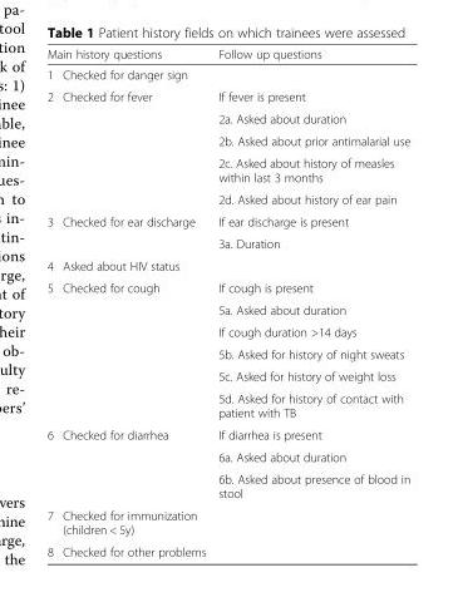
<table><thead><tr><td colspan="2">Main history questions</td><td rowspan="2">Follow up questions</td></tr><tr><td>1</td><td>Checked for danger sign</td></tr></thead><tbody><tr><td rowspan="5">2</td><td>Checked for fever</td><td>If fever is present</td></tr><tr><td></td><td>2a. Asked about duration</td></tr><tr><td></td><td>2b. Asked about prior antimalarial use</td></tr><tr><td></td><td>2c. Asked about history of measles within last 3 months</td></tr><tr><td></td><td>2d. Asked about history of ear pain</td></tr><tr><td rowspan="2">3</td><td>Checked for ear discharge</td><td>If ear discharge is present</td></tr><tr><td></td><td>3a. Duration</td></tr><tr><td>4</td><td>Asked about HIV status</td><td></td></tr><tr><td rowspan="6">5</td><td>Checked for cough</td><td>If cough is present</td></tr><tr><td></td><td>5a. Asked about duration</td></tr><tr><td></td><td>If cough duration &gt;14 days</td></tr><tr><td></td><td>5b. Asked for history of night sweats</td></tr><tr><td></td><td>5c. Asked for history of weight loss</td></tr><tr><td></td><td>5d. Asked for history of contact with patient with TB</td></tr><tr><td rowspan="3">6</td><td>Checked for diarrhea</td><td>If diarrhea is present</td></tr><tr><td></td><td>6a. Asked about duration</td></tr><tr><td></td><td>6b. Asked about presence of blood in stool</td></tr><tr><td>7</td><td>Checked for immunization (children &lt; 5y)</td><td></td></tr><tr><td>8</td><td>Checked for other problems</td><td></td></tr></tbody></table>